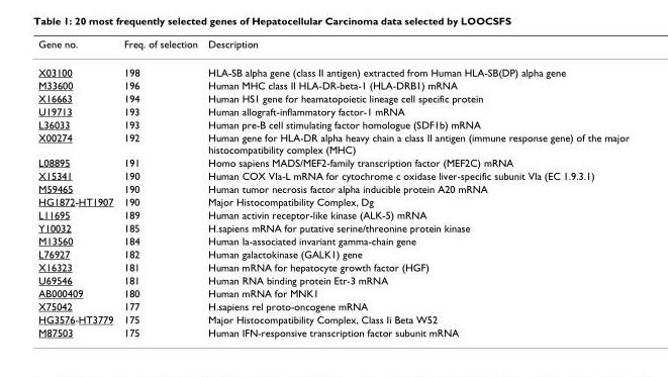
<table><thead><tr><td>Gene no.</td><td>Freq. of selection</td><td>Description</td></tr></thead><tbody><tr><td>X03100</td><td>198</td><td>HLA-SB alpha gene (class II antigen) extracted from Human HLA-SB(DP) alpha gene</td></tr><tr><td>M33600</td><td>196</td><td>Human MHC class II HLA-DR-beta-1 (HLA-DRB1) mRNA</td></tr><tr><td>X16663</td><td>194</td><td>Human HS1 gene for heamatopoietic lineage cell specific protein</td></tr><tr><td>U19713</td><td>193</td><td>Human allograft-inflammatory factor-1 mRNA</td></tr><tr><td>L36033</td><td>193</td><td>Human pre-B cell stimulating factor homologue (SDF1b) mRNA</td></tr><tr><td>X00274</td><td>192</td><td>Human gene for HLA-DR alpha heavy chain a class II antigen (immune response gene) of the major histocompatibility complex (MHC)</td></tr><tr><td>L08895</td><td>191</td><td>Homo sapiens MADS/MEF2-family transcription factor (MEF2C) mRNA</td></tr><tr><td>X15341</td><td>190</td><td>Human COX VIa-L mRNA for cytochrome c oxidase liver-specific subunit VIa (EC 1.9.3.1)</td></tr><tr><td>M59465</td><td>190</td><td>Human tumor necrosis factor alpha inducible protein A20 mRNA</td></tr><tr><td>HG1872-HT1907</td><td>190</td><td>Major Histocompatibility Complex, Dg</td></tr><tr><td>L11695</td><td>189</td><td>Human activin receptor-like kinase (ALK-5) mRNA</td></tr><tr><td>Y10032</td><td>185</td><td>H.sapiens mRNA for putative serine/threonine protein kinase</td></tr><tr><td>M13560</td><td>184</td><td>Human Ia-associated invariant gamma-chain gene</td></tr><tr><td>L76927</td><td>182</td><td>Human galactokinase (GALK1) gene</td></tr><tr><td>X16323</td><td>181</td><td>Human mRNA for hepatocyte growth factor (HGF)</td></tr><tr><td>U69546</td><td>181</td><td>Human RNA binding protein Etr-3 mRNA</td></tr><tr><td>AB000409</td><td>180</td><td>Human mRNA for MNK1</td></tr><tr><td>X75042</td><td>177</td><td>H.sapiens rel proto-oncogene mRNA</td></tr><tr><td>HG3576-HT3779</td><td>175</td><td>Major Histocompatibility Complex, Class Ii Beta W52</td></tr><tr><td>M87503</td><td>175</td><td>Human IFN-responsive transcription factor subunit mRNA</td></tr></tbody></table>